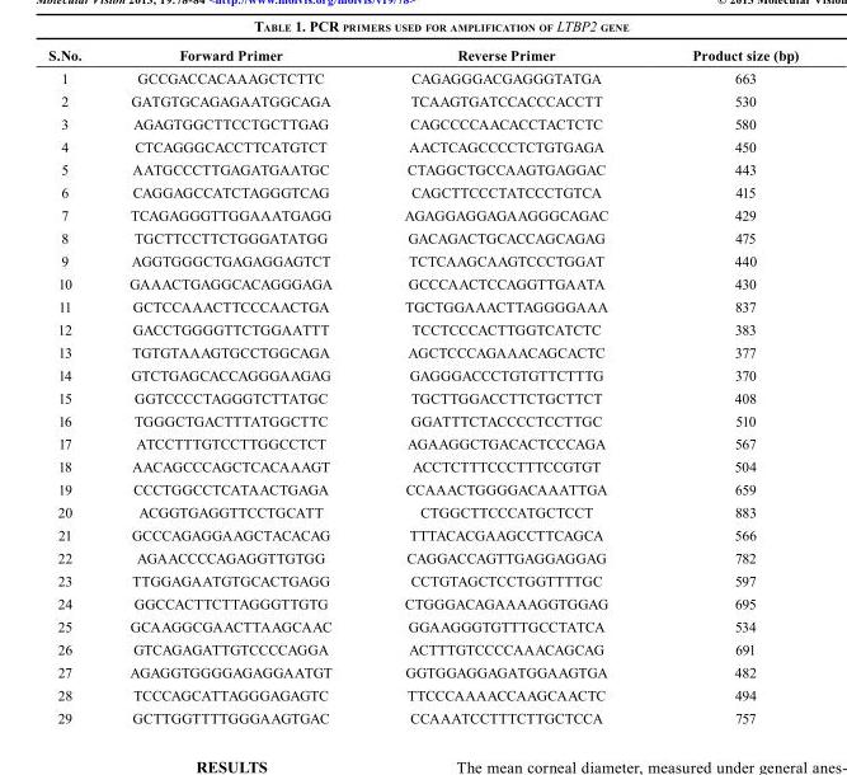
<table><thead><tr><td>S.No.</td><td>Forward Primer</td><td>Reverse Primer</td><td>Product size (bp)</td></tr></thead><tbody><tr><td>1</td><td>GCCGACCACAAAGCTCTTC</td><td>CAGAGGGACGAGGGTATGA</td><td>663</td></tr><tr><td>2</td><td>GATGTGCAGAGAATGGCAGA</td><td>TCAAGTGATCCACCCACCTT</td><td>530</td></tr><tr><td>3</td><td>AGAGTGGCTTCCTGCTTGAG</td><td>CAGCCCCAACACCTACTCTC</td><td>580</td></tr><tr><td>4</td><td>CTCAGGGCACCTTCATGTCT</td><td>AACTCAGCCCCTCTGTGAGA</td><td>450</td></tr><tr><td>5</td><td>AATGCCCTTGAGATGAATGC</td><td>CTAGGCTGCCAAGTGAGGAC</td><td>443</td></tr><tr><td>6</td><td>CAGGAGCCATCTAGGGTCAG</td><td>CAGCTTCCCTATCCCTGTCA</td><td>415</td></tr><tr><td>7</td><td>TCAGAGGGTTGGAAATGAGG</td><td>AGAGGAGGAGAAGGGCAGAC</td><td>429</td></tr><tr><td>8</td><td>TGCTTCCTTCTGGGATATGG</td><td>GACAGACTGCACCAGCAGAG</td><td>475</td></tr><tr><td>9</td><td>AGGTGGGCTGAGAGGAGTCT</td><td>TCTCAAGCAAGTCCCTGGAT</td><td>440</td></tr><tr><td>10</td><td>GAAACTGAGGCACAGGGAGA</td><td>GCCCAACTCCAGGTTGAATA</td><td>430</td></tr><tr><td>11</td><td>GCTCCAAACTTCCCAACTGA</td><td>TGCTGGAAACTTAGGGGAAA</td><td>837</td></tr><tr><td>12</td><td>GACCTGGGGTTCTGGAATTT</td><td>TCCTCCCACTTGGTCATCTC</td><td>383</td></tr><tr><td>13</td><td>TGTGTAAAGTGCCTGGCAGA</td><td>AGCTCCCAGAAACAGCACTC</td><td>377</td></tr><tr><td>14</td><td>GTCTGAGCACCAGGGAAGAG</td><td>GAGGGACCCTGTGTTCTTTG</td><td>370</td></tr><tr><td>15</td><td>GGTCCCCTAGGGTCTTATGC</td><td>TGCTTGGACCTTCTGCTTCT</td><td>408</td></tr><tr><td>16</td><td>TGGGCTGACTTTATGGCTTC</td><td>GGATTTCTACCCCTCCTTGC</td><td>510</td></tr><tr><td>17</td><td>ATCCTTTGTCCTTGGCCTCT</td><td>AGAAGGCTGACACTCCCAGA</td><td>567</td></tr><tr><td>18</td><td>AACAGCCCAGCTCACAAAGT</td><td>ACCTCTTTCCCTTTCCGTGT</td><td>504</td></tr><tr><td>19</td><td>CCCTGGCCTCATAACTGAGA</td><td>CCAAACTGGGGACAAATTGA</td><td>659</td></tr><tr><td>20</td><td>ACGGTGAGGTTCCTGCATT</td><td>CTGGCTTCCCATGCTCCT</td><td>883</td></tr><tr><td>21</td><td>GCCCAGAGGAAGCTACACAG</td><td>TTTACACGAAGCCTTCAGCA</td><td>566</td></tr><tr><td>22</td><td>AGAACCCCAGAGGTTGTGG</td><td>CAGGACCAGTTGAGGAGGAG</td><td>782</td></tr><tr><td>23</td><td>TTGGAGAATGTGCACTGAGG</td><td>CCTGTAGCTCCTGGTTTTGC</td><td>597</td></tr><tr><td>24</td><td>GGCCACTTCTTAGGGTTGTG</td><td>CTGGGACAGAAAAGGTGGAG</td><td>695</td></tr><tr><td>25</td><td>GCAAGGCGAACTTAAGCAAC</td><td>GGAAGGGTGTTTGCCTATCA</td><td>534</td></tr><tr><td>26</td><td>GTCAGAGATTGTCCCCAGGA</td><td>ACTTTGTCCCCAAACAGCAG</td><td>691</td></tr><tr><td>27</td><td>AGAGGTGGGGAGAGGAATGT</td><td>GGTGGAGGAGATGGAAGTGA</td><td>482</td></tr><tr><td>28</td><td>TCCCAGCATTAGGGAGAGTC</td><td>TTCCCAAAACCAAGCAACTC</td><td>494</td></tr><tr><td>29</td><td>GCTTGGTTTTGGGAAGTGAC</td><td>CCAAATCCTTTCTTGCTCCA</td><td>757</td></tr></tbody></table>